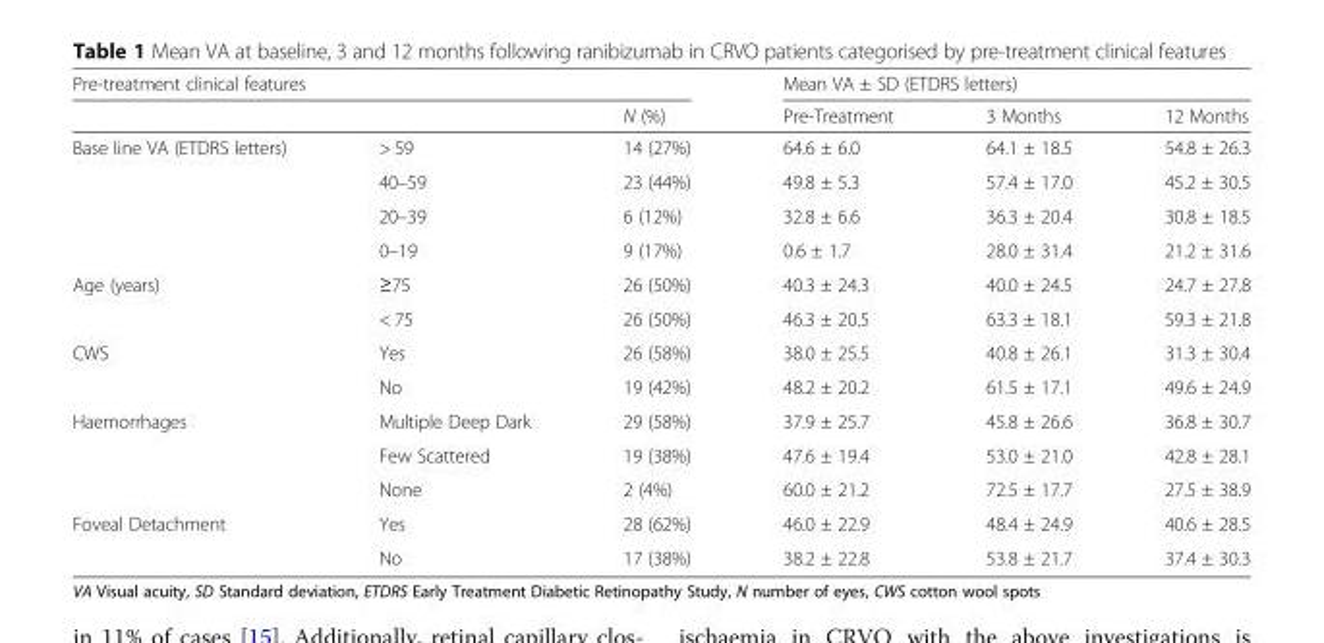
<table><thead><tr><td colspan="3">Pre-treatment clinical features</td><td colspan="3">Mean VA ± SD (ETDRS letters)</td></tr><tr><td></td><td></td><td>N (%)</td><td>Pre-Treatment</td><td>3 Months</td><td>12 Months</td></tr></thead><tbody><tr><td rowspan="4">Base line VA (ETDRS letters)</td><td>&gt; 59</td><td>14 (27%)</td><td>64.6 ± 6.0</td><td>64.1 ± 18.5</td><td>54.8 ± 26.3</td></tr><tr><td>40–59</td><td>23 (44%)</td><td>49.8 ± 5.3</td><td>57.4 ± 17.0</td><td>45.2 ± 30.5</td></tr><tr><td>20–39</td><td>6 (12%)</td><td>32.8 ± 6.6</td><td>36.3 ± 20.4</td><td>30.8 ± 18.5</td></tr><tr><td>0–19</td><td>9 (17%)</td><td>0.6 ± 1.7</td><td>28.0 ± 31.4</td><td>21.2 ± 31.6</td></tr><tr><td rowspan="2">Age (years)</td><td>≥75</td><td>26 (50%)</td><td>40.3 ± 24.3</td><td>40.0 ± 24.5</td><td>24.7 ± 27.8</td></tr><tr><td>&lt; 75</td><td>26 (50%)</td><td>46.3 ± 20.5</td><td>63.3 ± 18.1</td><td>59.3 ± 21.8</td></tr><tr><td rowspan="2">CWS</td><td>Yes</td><td>26 (58%)</td><td>38.0 ± 25.5</td><td>40.8 ± 26.1</td><td>31.3 ± 30.4</td></tr><tr><td>No</td><td>19 (42%)</td><td>48.2 ± 20.2</td><td>61.5 ± 17.1</td><td>49.6 ± 24.9</td></tr><tr><td rowspan="3">Haemorrhages</td><td>Multiple Deep Dark</td><td>29 (58%)</td><td>37.9 ± 25.7</td><td>45.8 ± 26.6</td><td>36.8 ± 30.7</td></tr><tr><td>Few Scattered</td><td>19 (38%)</td><td>47.6 ± 19.4</td><td>53.0 ± 21.0</td><td>42.8 ± 28.1</td></tr><tr><td>None</td><td>2 (4%)</td><td>60.0 ± 21.2</td><td>72.5 ± 17.7</td><td>27.5 ± 38.9</td></tr><tr><td rowspan="2">Foveal Detachment</td><td>Yes</td><td>28 (62%)</td><td>46.0 ± 22.9</td><td>48.4 ± 24.9</td><td>40.6 ± 28.5</td></tr><tr><td>No</td><td>17 (38%)</td><td>38.2 ± 22.8</td><td>53.8 ± 21.7</td><td>37.4 ± 30.3</td></tr></tbody></table>